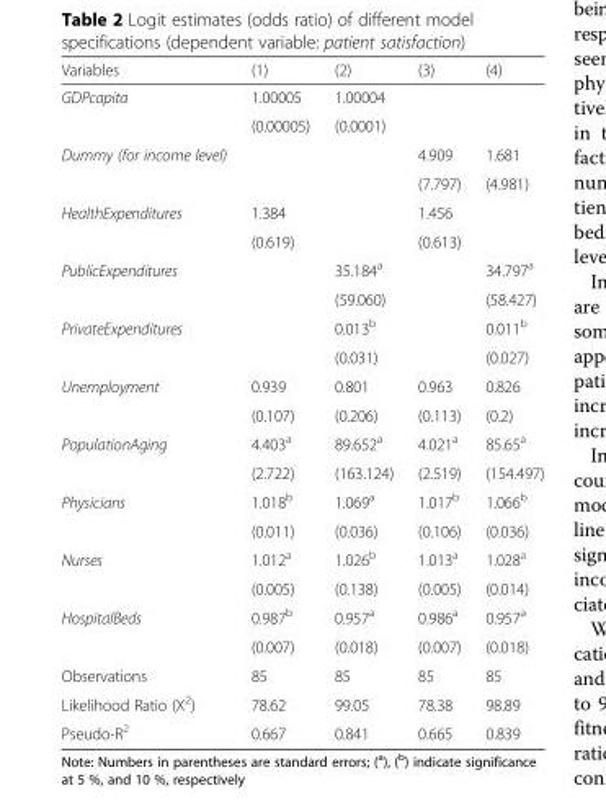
<table><thead><tr><td>Variables</td><td>(1)</td><td>(2)</td><td>(3)</td><td>(4)</td></tr></thead><tbody><tr><td rowspan="2">GDPcapita</td><td>1.00005</td><td>1.00004</td><td rowspan="2"></td><td rowspan="2"></td></tr><tr><td>(0.00005)</td><td>(0.0001)</td></tr><tr><td rowspan="2">Dummy (for income level)</td><td rowspan="2"></td><td rowspan="2"></td><td>4.909</td><td>1.681</td></tr><tr><td>(7.797)</td><td>(4.981)</td></tr><tr><td rowspan="2">HealthExpenditures</td><td>1.384</td><td rowspan="2"></td><td>1.456</td><td rowspan="2"></td></tr><tr><td>(0.619)</td><td>(0.613)</td></tr><tr><td rowspan="2">PublicExpenditures</td><td rowspan="2"></td><td>35.184<sup>a</sup></td><td rowspan="2"></td><td>34.797<sup>a</sup></td></tr><tr><td>(59.060)</td><td>(58.427)</td></tr><tr><td rowspan="2">PrivateExpenditures</td><td rowspan="2"></td><td>0.013<sup>b</sup></td><td rowspan="2"></td><td>0.011<sup>b</sup></td></tr><tr><td>(0.031)</td><td>(0.027)</td></tr><tr><td rowspan="2">Unemployment</td><td>0.939</td><td>0.801</td><td>0.963</td><td>0.826</td></tr><tr><td>(0.107)</td><td>(0.206)</td><td>(0.113)</td><td>(0.2)</td></tr><tr><td rowspan="2">PopulationAging</td><td>4.403<sup>a</sup></td><td>89.652<sup>a</sup></td><td>4.021<sup>a</sup></td><td>85.65<sup>a</sup></td></tr><tr><td>(2.722)</td><td>(163.124)</td><td>(2.519)</td><td>(154.497)</td></tr><tr><td rowspan="2">Physicians</td><td>1.018<sup>b</sup></td><td>1.069<sup>a</sup></td><td>1.017<sup>b</sup></td><td>1.066<sup>b</sup></td></tr><tr><td>(0.011)</td><td>(0.036)</td><td>(0.106)</td><td>(0.036)</td></tr><tr><td rowspan="2">Nurses</td><td>1.012<sup>a</sup></td><td>1.026<sup>b</sup></td><td>1.013<sup>a</sup></td><td>1.028<sup>a</sup></td></tr><tr><td>(0.005)</td><td>(0.138)</td><td>(0.005)</td><td>(0.014)</td></tr><tr><td rowspan="2">HospitalBeds</td><td>0.987<sup>b</sup></td><td>0.957<sup>a</sup></td><td>0.986<sup>a</sup></td><td>0.957<sup>a</sup></td></tr><tr><td>(0.007)</td><td>(0.018)</td><td>(0.007)</td><td>(0.018)</td></tr><tr><td>Observations</td><td>85</td><td>85</td><td>85</td><td>85</td></tr><tr><td>Likelihood Ratio (X<sup>2</sup>)</td><td>78.62</td><td>99.05</td><td>78.38</td><td>98.89</td></tr><tr><td>Pseudo-R<sup>2</sup></td><td>0.667</td><td>0.841</td><td>0.665</td><td>0.839</td></tr></tbody></table>